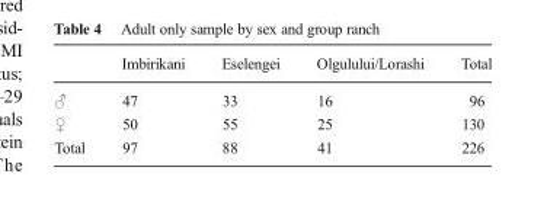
<table><thead><tr><td></td><td>Imbirikani</td><td>Eselengei</td><td>Olgulului/Lorashi</td><td>Total</td></tr></thead><tbody><tr><td>♂</td><td>47</td><td>33</td><td>16</td><td>96</td></tr><tr><td>♀</td><td>50</td><td>55</td><td>25</td><td>130</td></tr><tr><td>Total</td><td>97</td><td>88</td><td>41</td><td>226</td></tr></tbody></table>